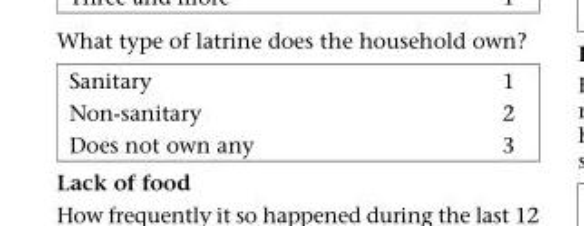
<table><tbody><tr><td>Sanitary</td><td>1</td></tr><tr><td>Non-sanitary</td><td>2</td></tr><tr><td>Does not own any</td><td>3</td></tr></tbody></table>